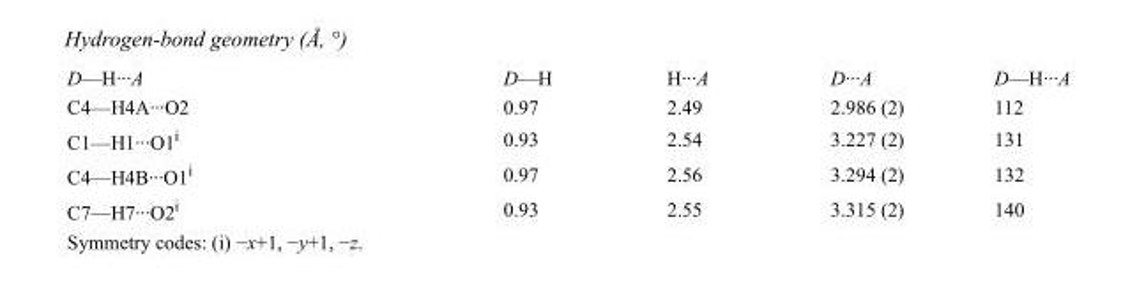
<table><tbody><tr><td>D—H···A</td><td>D—H</td><td>H···A</td><td>D···A</td><td>D—H···A</td></tr><tr><td>C4—H4A···O2</td><td>0.97</td><td>2.49</td><td>2.986 (2)</td><td>112</td></tr><tr><td>C1—H1···O1<sup>i</sup></td><td>0.93</td><td>2.54</td><td>3.227 (2)</td><td>131</td></tr><tr><td>C4—H4B···O1<sup>i</sup></td><td>0.97</td><td>2.56</td><td>3.294 (2)</td><td>132</td></tr><tr><td>C7—H7···O2<sup>i</sup></td><td>0.93</td><td>2.55</td><td>3.315 (2)</td><td>140</td></tr></tbody></table>